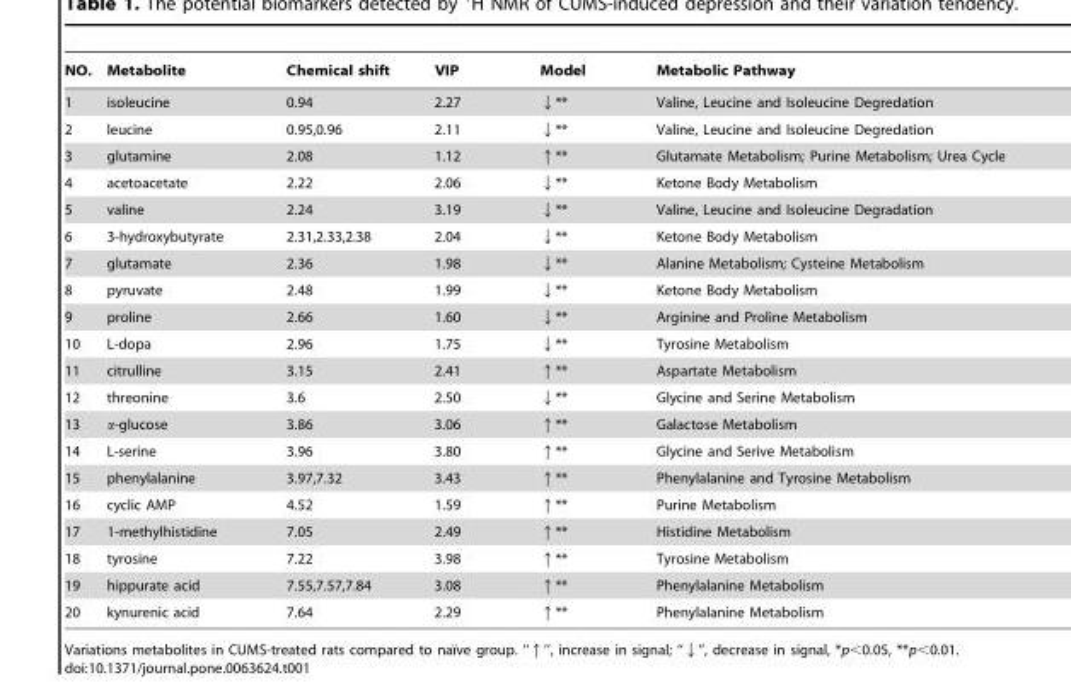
<table><thead><tr><td>NO.</td><td>Metabolite</td><td>Chemical shift</td><td>VIP</td><td>Model</td><td>Metabolic Pathway</td></tr></thead><tbody><tr><td>1</td><td>isoleucine</td><td>0.94</td><td>2.27</td><td>↓**</td><td>Valine, Leucine and Isoleucine Degredation</td></tr><tr><td>2</td><td>leucine</td><td>0.95,0.96</td><td>2.11</td><td>↓**</td><td>Valine, Leucine and Isoleucine Degredation</td></tr><tr><td>3</td><td>glutamine</td><td>2.08</td><td>1.12</td><td>↑**</td><td>Glutamate Metabolism; Purine Metabolism; Urea Cycle</td></tr><tr><td>4</td><td>acetoacetate</td><td>2.22</td><td>2.06</td><td>↓**</td><td>Ketone Body Metabolism</td></tr><tr><td>5</td><td>valine</td><td>2.24</td><td>3.19</td><td>↓**</td><td>Valine, Leucine and Isoleucine Degradation</td></tr><tr><td>6</td><td>3-hydroxybutyrate</td><td>2.31,2.33,2.38</td><td>2.04</td><td>↓**</td><td>Ketone Body Metabolism</td></tr><tr><td>7</td><td>glutamate</td><td>2.36</td><td>1.98</td><td>↓**</td><td>Alanine Metabolism; Cysteine Metabolism</td></tr><tr><td>8</td><td>pyruvate</td><td>2.48</td><td>1.99</td><td>↓**</td><td>Ketone Body Metabolism</td></tr><tr><td>9</td><td>proline</td><td>2.66</td><td>1.60</td><td>↓**</td><td>Arginine and Proline Metabolism</td></tr><tr><td>10</td><td>L-dopa</td><td>2.96</td><td>1.75</td><td>↓**</td><td>Tyrosine Metabolism</td></tr><tr><td>11</td><td>citrulline</td><td>3.15</td><td>2.41</td><td>↑**</td><td>Aspartate Metabolism</td></tr><tr><td>12</td><td>threonine</td><td>3.6</td><td>2.50</td><td>↓**</td><td>Glycine and Serine Metabolism</td></tr><tr><td>13</td><td>α-glucose</td><td>3.86</td><td>3.06</td><td>↑**</td><td>Galactose Metabolism</td></tr><tr><td>14</td><td>L-serine</td><td>3.96</td><td>3.80</td><td>↑**</td><td>Glycine and Serive Metabolism</td></tr><tr><td>15</td><td>phenylalanine</td><td>3.97,7.32</td><td>3.43</td><td>↑**</td><td>Phenylalanine and Tyrosine Metabolism</td></tr><tr><td>16</td><td>cyclic AMP</td><td>4.52</td><td>1.59</td><td>↑**</td><td>Purine Metabolism</td></tr><tr><td>17</td><td>1-methylhistidine</td><td>7.05</td><td>2.49</td><td>↑**</td><td>Histidine Metabolism</td></tr><tr><td>18</td><td>tyrosine</td><td>7.22</td><td>3.98</td><td>↑**</td><td>Tyrosine Metabolism</td></tr><tr><td>19</td><td>hippurate acid</td><td>7.55,7.57,7.84</td><td>3.08</td><td>↑**</td><td>Phenylalanine Metabolism</td></tr><tr><td>20</td><td>kynurenic acid</td><td>7.64</td><td>2.29</td><td>↑**</td><td>Phenylalanine Metabolism</td></tr></tbody></table>